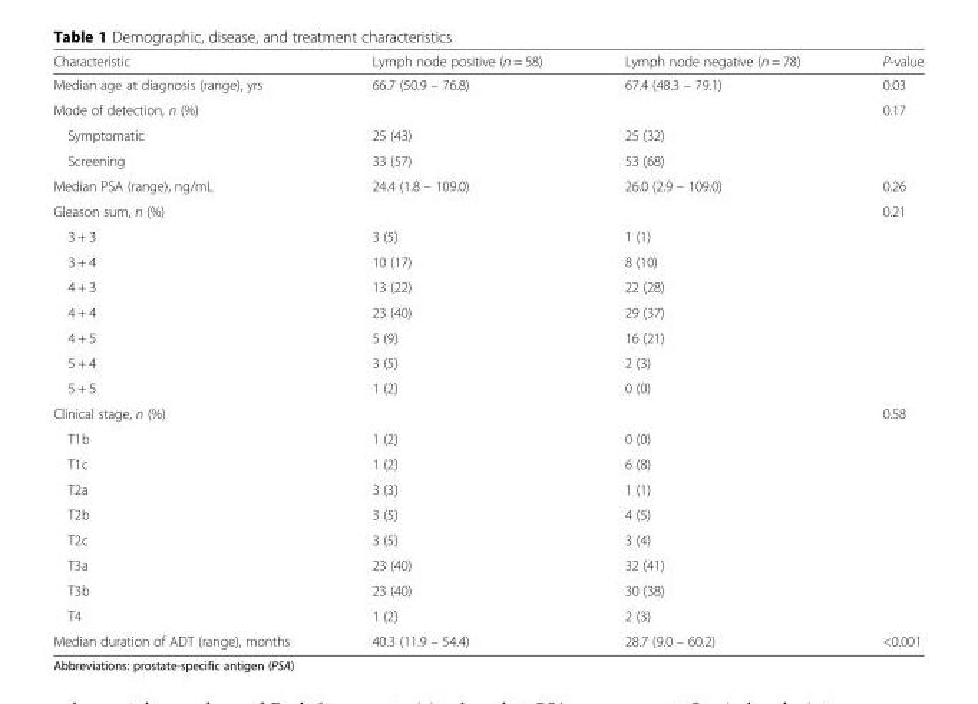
<table><thead><tr><td>Characteristic</td><td>Lymph node positive (n = 58)</td><td>Lymph node negative (n = 78)</td><td>P-value</td></tr></thead><tbody><tr><td>Median age at diagnosis (range), yrs</td><td>66.7 (50.9 – 76.8)</td><td>67.4 (48.3 – 79.1)</td><td>0.03</td></tr><tr><td>Mode of detection, n (%)</td><td></td><td></td><td>0.17</td></tr><tr><td>Symptomatic</td><td>25 (43)</td><td>25 (32)</td><td rowspan="2"></td></tr><tr><td>Screening</td><td>33 (57)</td><td>53 (68)</td></tr><tr><td>Median PSA (range), ng/mL</td><td>24.4 (1.8 – 109.0)</td><td>26.0 (2.9 – 109.0)</td><td>0.26</td></tr><tr><td colspan="3">Gleason sum, n (%)</td><td rowspan="8">0.21</td></tr><tr><td>3 + 3</td><td>3 (5)</td><td>1 (1)</td></tr><tr><td>3 + 4</td><td>10 (17)</td><td>8 (10)</td></tr><tr><td>4 + 3</td><td>13 (22)</td><td>22 (28)</td></tr><tr><td>4 + 4</td><td>23 (40)</td><td>29 (37)</td></tr><tr><td>4 + 5</td><td>5 (9)</td><td>16 (21)</td></tr><tr><td>5 + 4</td><td>3 (5)</td><td>2 (3)</td></tr><tr><td>5 + 5</td><td>1 (2)</td><td>0 (0)</td></tr><tr><td colspan="3">Clinical stage, n (%)</td><td rowspan="9">0.58</td></tr><tr><td>T1b</td><td>1 (2)</td><td>0 (0)</td></tr><tr><td>T1c</td><td>1 (2)</td><td>6 (8)</td></tr><tr><td>T2a</td><td>3 (3)</td><td>1 (1)</td></tr><tr><td>T2b</td><td>3 (5)</td><td>4 (5)</td></tr><tr><td>T2c</td><td>3 (5)</td><td>3 (4)</td></tr><tr><td>T3a</td><td>23 (40)</td><td>32 (41)</td></tr><tr><td>T3b</td><td>23 (40)</td><td>30 (38)</td></tr><tr><td>T4</td><td>1 (2)</td><td>2 (3)</td></tr><tr><td>Median duration of ADT (range), months</td><td>40.3 (11.9 – 54.4)</td><td>28.7 (9.0 – 60.2)</td><td>&lt;0.001</td></tr></tbody></table>